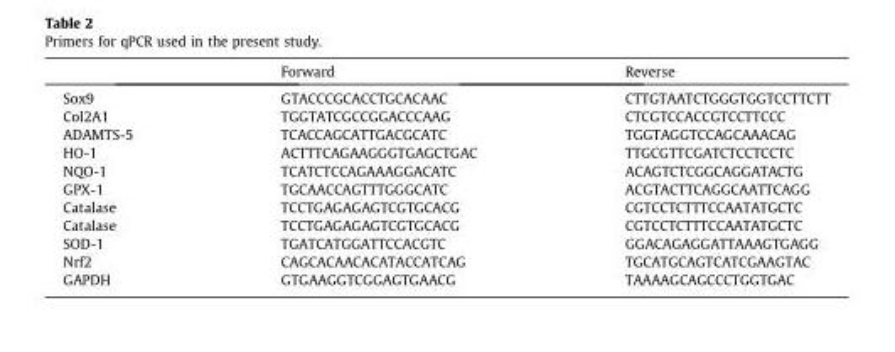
<table><thead><tr><td></td><td>Forward</td><td>Reverse</td></tr></thead><tbody><tr><td>Sox9</td><td>GTACCCGCACCTGCACAAC</td><td>CTTGTAATCTGGGTGGTCCTTCTT</td></tr><tr><td>Col2A1</td><td>TGGTATCGCCGGACCCAAG</td><td>CTCGTCCACCGTCCTTCCC</td></tr><tr><td>ADAMTS-5</td><td>TCACCAGCATTGACGCATC</td><td>TGGTAGGTCCAGCAAACAG</td></tr><tr><td>HO-1</td><td>ACTTTCAGAAGGGTGAGCTGAC</td><td>TTGCGTTCGATCTCCTCCTC</td></tr><tr><td>NQO-1</td><td>TCATCTCCAGAAAGGACATC</td><td>ACAGTCTCGGCAGGATACTG</td></tr><tr><td>GPX-1</td><td>TGCAACCAGTTTGGGCATC</td><td>ACGTACTTCAGGCAATTCAGG</td></tr><tr><td>Catalase</td><td>TCCTGAGAGAGTCGTGCACG</td><td>CGTCCTCTTTCCAATATGCTC</td></tr><tr><td>Catalase</td><td>TCCTGAGAGAGTCGTGCACG</td><td>CGTCCTCTTTCCAATATGCTC</td></tr><tr><td>SOD-1</td><td>TGATCATGGATTCCACGTC</td><td>GGACAGAGGATTAAAGTGAGG</td></tr><tr><td>Nrf2</td><td>CAGCACAACACATACCATCAG</td><td>TGCATGCAGTCATCGAAGTAC</td></tr><tr><td>GAPDH</td><td>GTGAAGGTCGGAGTGAACG</td><td>TAAAAGCAGCCCTGGTGAC</td></tr></tbody></table>